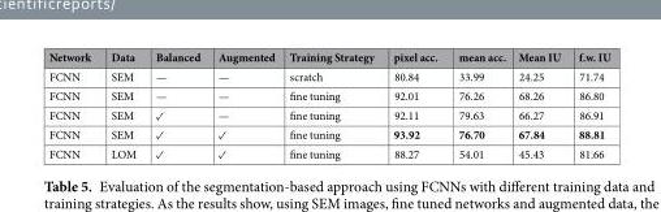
<table><thead><tr><td>Network</td><td>Data</td><td>Balanced</td><td>Augmented</td><td>Training Strategy</td><td>pixel acc.</td><td>mean acc.</td><td>Mean IU</td><td>f.w. IU</td></tr></thead><tbody><tr><td>FCNN</td><td>SEM</td><td>—</td><td>—</td><td>scratch</td><td>80.84</td><td>33.99</td><td>24.25</td><td>71.74</td></tr><tr><td>FCNN</td><td>SEM</td><td>—</td><td>—</td><td>fine tuning</td><td>92.01</td><td>76.26</td><td>68.26</td><td>86.80</td></tr><tr><td>FCNN</td><td>SEM</td><td>✓</td><td>—</td><td>fine tuning</td><td>92.11</td><td>79.63</td><td>66.27</td><td>86.91</td></tr><tr><td>FCNN</td><td>SEM</td><td>✓</td><td>✓</td><td>fine tuning</td><td>93.92</td><td>76.70</td><td>67.84</td><td>88.81</td></tr><tr><td>FCNN</td><td>LOM</td><td>✓</td><td>✓</td><td>fine tuning</td><td>88.27</td><td>54.01</td><td>45.43</td><td>81.66</td></tr></tbody></table>